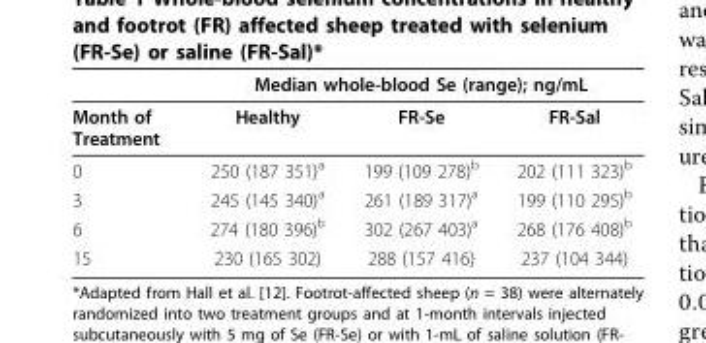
<table><thead><tr><td rowspan="2">Month of Treatment</td><td colspan="3">Median whole-blood Se (range); ng/mL</td></tr><tr><td>Healthy</td><td>FR-Se</td><td>FR-Sal</td></tr></thead><tbody><tr><td>0</td><td>250 (187 351)<sup>a</sup></td><td>199 (109 278)<sup>b</sup></td><td>202 (111 323)<sup>b</sup></td></tr><tr><td>3</td><td>245 (145 340)<sup>a</sup></td><td>261 (189 317)<sup>a</sup></td><td>199 (110 295)<sup>b</sup></td></tr><tr><td>6</td><td>274 (180 396)<sup>b</sup></td><td>302 (267 403)<sup>a</sup></td><td>268 (176 408)<sup>b</sup></td></tr><tr><td>15</td><td>230 (165 302)</td><td>288 (157 416)</td><td>237 (104 344)</td></tr></tbody></table>